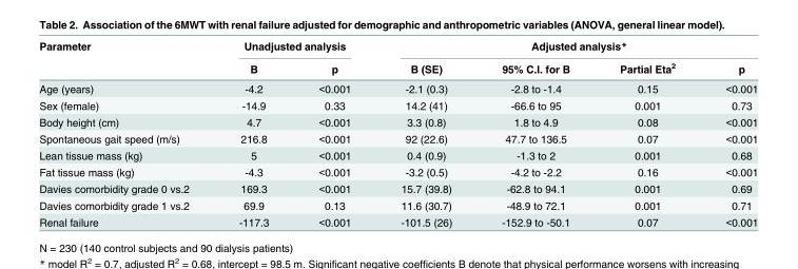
<table><thead><tr><td rowspan="2">Parameter</td><td colspan="2">Unadjusted analysis</td><td colspan="4">Adjusted analysis*</td></tr><tr><td>B</td><td>p</td><td>B (SE)</td><td>95% C.I. for B</td><td>Partial Eta<sup>2</sup></td><td>p</td></tr></thead><tbody><tr><td>Age (years)</td><td>-4.2</td><td>&lt;0.001</td><td>-2.1 (0.3)</td><td>-2.8 to -1.4</td><td>0.15</td><td>&lt;0.001</td></tr><tr><td>Sex (female)</td><td>-14.9</td><td>0.33</td><td>14.2 (41)</td><td>-66.6 to 95</td><td>0.001</td><td>0.73</td></tr><tr><td>Body height (cm)</td><td>4.7</td><td>&lt;0.001</td><td>3.3 (0.8)</td><td>1.8 to 4.9</td><td>0.08</td><td>&lt;0.001</td></tr><tr><td>Spontaneous gait speed (m/s)</td><td>216.8</td><td>&lt;0.001</td><td>92 (22.6)</td><td>47.7 to 136.5</td><td>0.07</td><td>&lt;0.001</td></tr><tr><td>Lean tissue mass (kg)</td><td>5</td><td>&lt;0.001</td><td>0.4 (0.9)</td><td>-1.3 to 2</td><td>0.001</td><td>0.68</td></tr><tr><td>Fat tissue mass (kg)</td><td>-4.3</td><td>&lt;0.001</td><td>-3.2 (0.5)</td><td>-4.2 to -2.2</td><td>0.16</td><td>&lt;0.001</td></tr><tr><td>Davies comorbidity grade 0 vs.2</td><td>169.3</td><td>&lt;0.001</td><td>15.7 (39.8)</td><td>-62.8 to 94.1</td><td>0.001</td><td>0.69</td></tr><tr><td>Davies comorbidity grade 1 vs.2</td><td>69.9</td><td>0.13</td><td>11.6 (30.7)</td><td>-48.9 to 72.1</td><td>0.001</td><td>0.71</td></tr><tr><td>Renal failure</td><td>-117.3</td><td>&lt;0.001</td><td>-101.5 (26)</td><td>-152.9 to -50.1</td><td>0.07</td><td>&lt;0.001</td></tr></tbody></table>